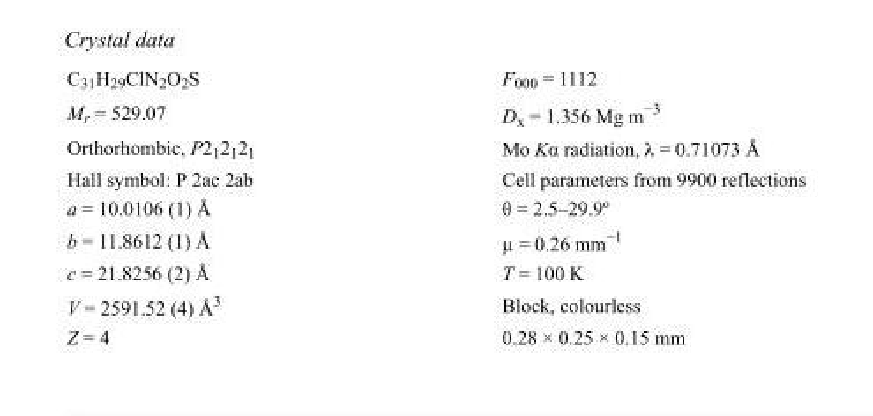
<table><tbody><tr><td>C<sub>31</sub>H<sub>29</sub>ClN<sub>2</sub>O<sub>2</sub>S</td><td>F000 = 1112</td></tr><tr><td>M<sub>r</sub> = 529.07</td><td>D<sub>x</sub> = 1.356 Mg m<sup>−3</sup></td></tr><tr><td>Orthorhombic, P2<sub>1</sub>2<sub>1</sub>2<sub>1</sub></td><td>Mo Kα radiation, λ = 0.71073 Å</td></tr><tr><td>Hall symbol: P 2ac 2ab</td><td>Cell parameters from 9900 reflections</td></tr><tr><td>a = 10.0106 (1) Å</td><td>θ = 2.5–29.9º</td></tr><tr><td>b = 11.8612 (1) Å</td><td>µ = 0.26 mm<sup>−1</sup></td></tr><tr><td>c = 21.8256 (2) Å</td><td>T = 100 K</td></tr><tr><td>V = 2591.52 (4) Å<sup>3</sup></td><td>Block, colourless</td></tr><tr><td>Z = 4</td><td>0.28 × 0.25 × 0.15 mm</td></tr></tbody></table>